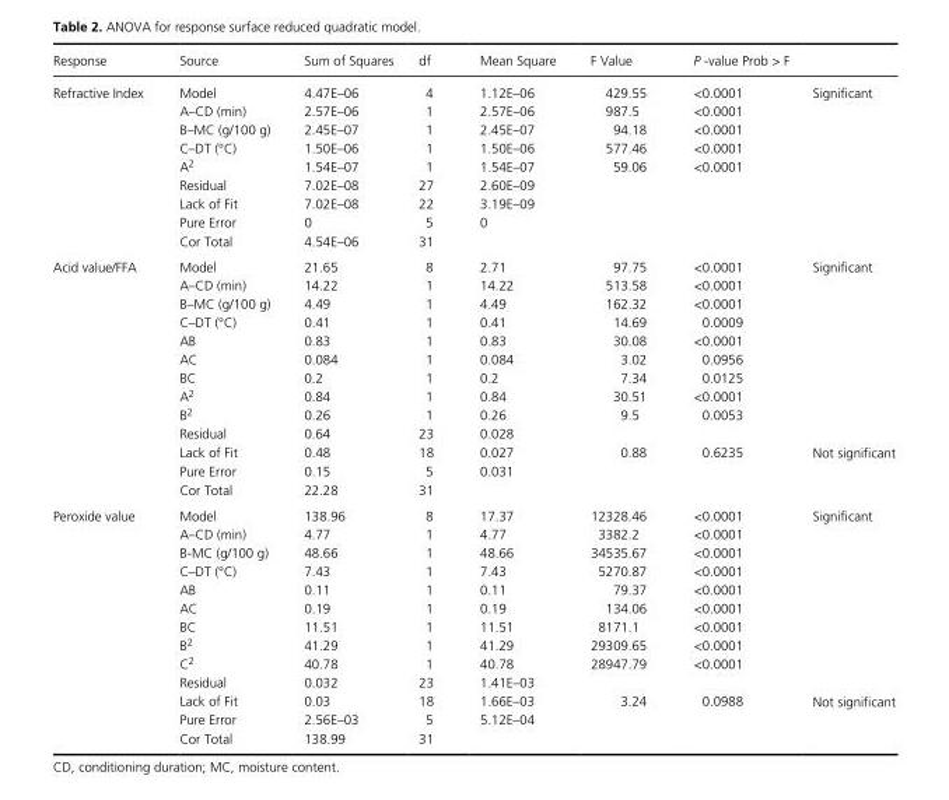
<table><thead><tr><td>Response</td><td>Source</td><td>Sum of Squares</td><td>df</td><td>Mean Square</td><td>F Value</td><td>P - value Prob &gt; F</td><td></td></tr></thead><tbody><tr><td rowspan="9">Refractive Index</td><td>Model</td><td>4.47E–06</td><td>4</td><td>1.12E–06</td><td>429.55</td><td>&lt;0.0001</td><td>Significant</td></tr><tr><td>A–CD (min)</td><td>2.57E–06</td><td>1</td><td>2.57E–06</td><td>987.5</td><td>&lt;0.0001</td><td></td></tr><tr><td>B–MC (g/100 g)</td><td>2.45E–07</td><td>1</td><td>2.45E–07</td><td>94.18</td><td>&lt;0.0001</td><td></td></tr><tr><td>C–DT (°C)</td><td>1.50E–06</td><td>1</td><td>1.50E–06</td><td>577.46</td><td>&lt;0.0001</td><td></td></tr><tr><td>A<sup>2</sup></td><td>1.54E–07</td><td>1</td><td>1.54E–07</td><td>59.06</td><td>&lt;0.0001</td><td></td></tr><tr><td>Residual</td><td>7.02E–08</td><td>27</td><td>2.60E–09</td><td></td><td></td><td></td></tr><tr><td>Lack of Fit</td><td>7.02E–08</td><td>22</td><td>3.19E–09</td><td></td><td></td><td></td></tr><tr><td>Pure Error</td><td>0</td><td>5</td><td>0</td><td></td><td></td><td></td></tr><tr><td>Cor Total</td><td>4.54E–06</td><td>31</td><td></td><td></td><td></td><td></td></tr><tr><td rowspan="13">Acid value/FFA</td><td>Model</td><td>21.65</td><td>8</td><td>2.71</td><td>97.75</td><td>&lt;0.0001</td><td>Significant</td></tr><tr><td>A–CD (min)</td><td>14.22</td><td>1</td><td>14.22</td><td>513.58</td><td>&lt;0.0001</td><td></td></tr><tr><td>B–MC (g/100 g)</td><td>4.49</td><td>1</td><td>4.49</td><td>162.32</td><td>&lt;0.0001</td><td></td></tr><tr><td>C–DT (°C)</td><td>0.41</td><td>1</td><td>0.41</td><td>14.69</td><td>0.0009</td><td></td></tr><tr><td>AB</td><td>0.83</td><td>1</td><td>0.83</td><td>30.08</td><td>&lt;0.0001</td><td></td></tr><tr><td>AC</td><td>0.084</td><td>1</td><td>0.084</td><td>3.02</td><td>0.0956</td><td></td></tr><tr><td>BC</td><td>0.2</td><td>1</td><td>0.2</td><td>7.34</td><td>0.0125</td><td></td></tr><tr><td>A<sup>2</sup></td><td>0.84</td><td>1</td><td>0.84</td><td>30.51</td><td>&lt;0.0001</td><td></td></tr><tr><td>B<sup>2</sup></td><td>0.26</td><td>1</td><td>0.26</td><td>9.5</td><td>0.0053</td><td></td></tr><tr><td>Residual</td><td>0.64</td><td>23</td><td>0.028</td><td></td><td></td><td></td></tr><tr><td>Lack of Fit</td><td>0.48</td><td>18</td><td>0.027</td><td>0.88</td><td>0.6235</td><td>Not significant</td></tr><tr><td>Pure Error</td><td>0.15</td><td>5</td><td>0.031</td><td></td><td></td><td></td></tr><tr><td>Cor Total</td><td>22.28</td><td>31</td><td></td><td></td><td></td><td></td></tr><tr><td rowspan="13">Peroxide value</td><td>Model</td><td>138.96</td><td>8</td><td>17.37</td><td>12328.46</td><td>&lt;0.0001</td><td>Significant</td></tr><tr><td>A–CD (min)</td><td>4.77</td><td>1</td><td>4.77</td><td>3382.2</td><td>&lt;0.0001</td><td></td></tr><tr><td>B-MC (g/100 g)</td><td>48.66</td><td>1</td><td>48.66</td><td>34535.67</td><td>&lt;0.0001</td><td></td></tr><tr><td>C–DT (°C)</td><td>7.43</td><td>1</td><td>7.43</td><td>5270.87</td><td>&lt;0.0001</td><td></td></tr><tr><td>AB</td><td>0.11</td><td>1</td><td>0.11</td><td>79.37</td><td>&lt;0.0001</td><td></td></tr><tr><td>AC</td><td>0.19</td><td>1</td><td>0.19</td><td>134.06</td><td>&lt;0.0001</td><td></td></tr><tr><td>BC</td><td>11.51</td><td>1</td><td>11.51</td><td>8171.1</td><td>&lt;0.0001</td><td></td></tr><tr><td>B<sup>2</sup></td><td>41.29</td><td>1</td><td>41.29</td><td>29309.65</td><td>&lt;0.0001</td><td></td></tr><tr><td>C<sup>2</sup></td><td>40.78</td><td>1</td><td>40.78</td><td>28947.79</td><td>&lt;0.0001</td><td></td></tr><tr><td>Residual</td><td>0.032</td><td>23</td><td>1.41E–03</td><td></td><td></td><td></td></tr><tr><td>Lack of Fit</td><td>0.03</td><td>18</td><td>1.66E–03</td><td>3.24</td><td>0.0988</td><td>Not significant</td></tr><tr><td>Pure Error</td><td>2.56E–03</td><td>5</td><td>5.12E–04</td><td></td><td></td><td></td></tr><tr><td>Cor Total</td><td>138.99</td><td>31</td><td></td><td></td><td></td><td></td></tr></tbody></table>